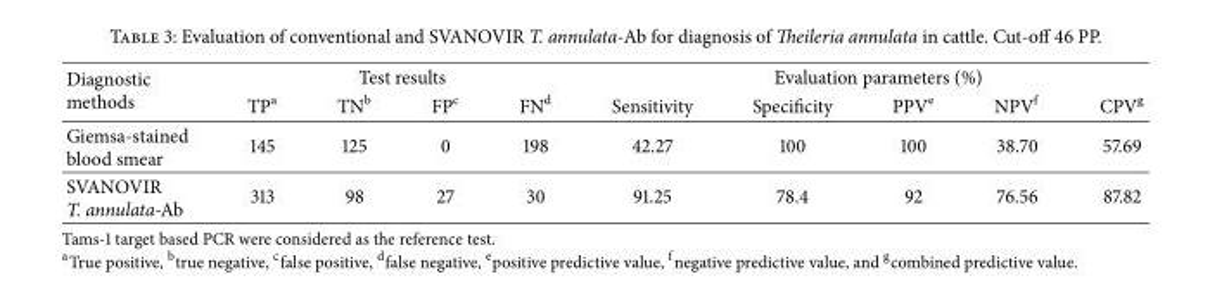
<table><thead><tr><td rowspan="2">Diagnostic methods</td><td colspan="4">Test results</td><td colspan="5">Evaluation parameters (%)</td></tr><tr><td>TP<sup>a</sup></td><td>TN<sup>b</sup></td><td>FP<sup>c</sup></td><td>FN<sup>d</sup></td><td>Sensitivity</td><td>Specificity</td><td>PPV<sup>e</sup></td><td>NPV<sup>f</sup></td><td>CPV<sup>g</sup></td></tr></thead><tbody><tr><td>Giemsa-stained blood smear</td><td>145</td><td>125</td><td>0</td><td>198</td><td>42.27</td><td>100</td><td>100</td><td>38.70</td><td>57.69</td></tr><tr><td>SVANOVIR T. annulata-Ab</td><td>313</td><td>98</td><td>27</td><td>30</td><td>91.25</td><td>78.4</td><td>92</td><td>76.56</td><td>87.82</td></tr></tbody></table>